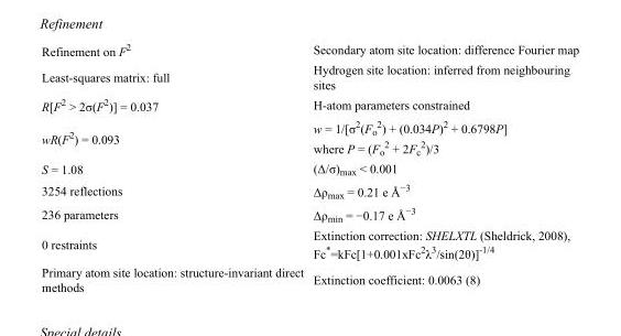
<table><tbody><tr><td>Refinement on F<sup>2</sup></td><td>Secondary atom site location: difference Fourier map</td></tr><tr><td>Least-squares matrix: full</td><td>Hydrogen site location: inferred from neighbouring sites</td></tr><tr><td>R[F<sup>2</sup> &gt; 2σ(F<sup>2</sup>)] = 0.037</td><td>H-atom parameters constrained</td></tr><tr><td>wR(F<sup>2</sup>) = 0.093</td><td>w = 1/[σ<sup>2</sup>(F<sub>o</sub> <sup>2</sup>) + (0.034P)<sup>2</sup> + 0.6798P] where P = (F<sub>o</sub> <sup>2</sup> + 2F<sub>c</sub> <sup>2</sup>)/3</td></tr><tr><td>S = 1.08</td><td>(Δ/σ)<sub>max</sub> &lt; 0.001</td></tr><tr><td>3254 reflections</td><td>Δρ<sub>max</sub> = 0.21 e Å<sup>−3</sup></td></tr><tr><td>236 parameters</td><td>Δρ<sub>min</sub> = −0.17 e Å<sup>−3</sup></td></tr><tr><td>0 restraints</td><td>Extinction correction: SHELXTL (Sheldrick, 2008), Fc*=kFc[1+0.001xFc<sup>2</sup>λ<sup>3</sup>/sin(2θ)]<sup>-1/4</sup></td></tr><tr><td>Primary atom site location: structure-invariant direct methods</td><td>Extinction coefficient: 0.0063 (8)</td></tr></tbody></table>